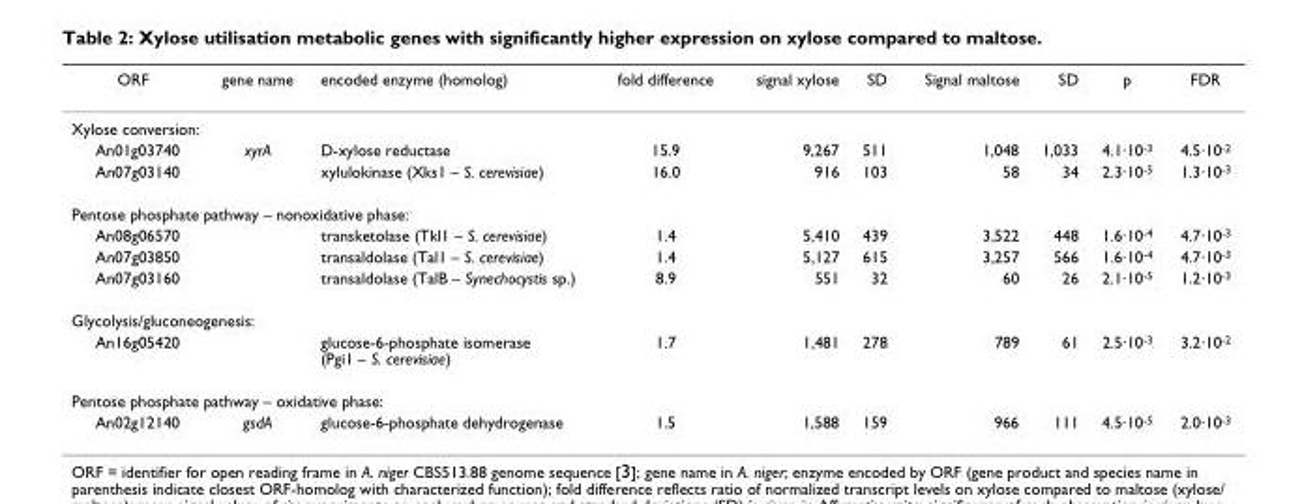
<table><thead><tr><td>ORF</td><td>gene name</td><td>encoded enzyme (homolog)</td><td>fold difference</td><td>signal xylose</td><td>SD</td><td>Signal maltose</td><td>SD</td><td>p</td><td>FDR</td></tr></thead><tbody><tr><td colspan="10">Xylose conversion:</td></tr><tr><td>An01g03740</td><td>xyrA</td><td>D-xylose reductase</td><td>15.9</td><td>9,267</td><td>511</td><td>1,048</td><td>1,033</td><td>4.1·10<sup>-3</sup></td><td>4.5·10<sup>-2</sup></td></tr><tr><td>An07g03140</td><td></td><td>xylulokinase (Xks1 – S. cerevisiae)</td><td>16.0</td><td>916</td><td>103</td><td>58</td><td>34</td><td>2.3·10<sup>-5</sup></td><td>1.3·10<sup>-3</sup></td></tr><tr><td colspan="10">Pentose phosphate pathway – nonoxidative phase:</td></tr><tr><td>An08g06570</td><td></td><td>transketolase (Tkl1 – S. cerevisiae)</td><td>1.4</td><td>5,410</td><td>439</td><td>3,522</td><td>448</td><td>1.6·10<sup>-4</sup></td><td>4.7·10<sup>-3</sup></td></tr><tr><td>An07g03850</td><td></td><td>transaldolase (Tal1 – S. cerevisiae)</td><td>1.4</td><td>5,127</td><td>615</td><td>3,257</td><td>566</td><td>1.6·10<sup>-4</sup></td><td>4.7·10<sup>-3</sup></td></tr><tr><td>An07g03160</td><td></td><td>transaldolase (TalB – Synechocystis sp.)</td><td>8.9</td><td>551</td><td>32</td><td>60</td><td>26</td><td>2.1·10<sup>-5</sup></td><td>1.2·10<sup>-3</sup></td></tr><tr><td colspan="10">Glycolysis/gluconeogenesis:</td></tr><tr><td>An16g05420</td><td></td><td>glucose-6-phosphate isomerase (Pgi1 – S. cerevisiae)</td><td>1.7</td><td>1,481</td><td>278</td><td>789</td><td>61</td><td>2.5·10<sup>-3</sup></td><td>3.2·10<sup>-2</sup></td></tr><tr><td colspan="10">Pentose phosphate pathway – oxidative phase:</td></tr><tr><td>An02g12140</td><td>gsdA</td><td>glucose-6-phosphate dehydrogenase</td><td>1.5</td><td>1,588</td><td>159</td><td>966</td><td>111</td><td>4.5·10<sup>-5</sup></td><td>2.0·10<sup>-3</sup></td></tr></tbody></table>